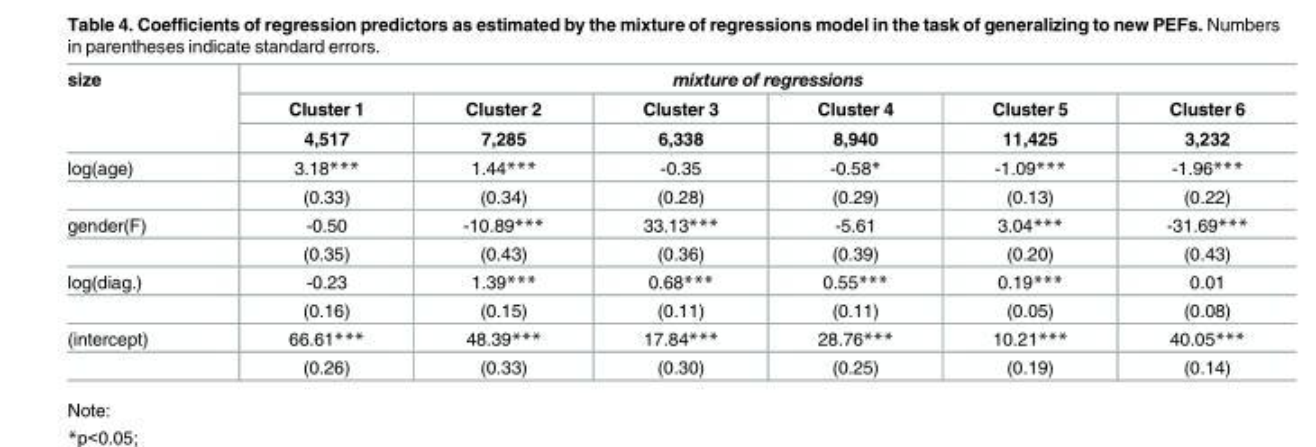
<table><thead><tr><td rowspan="3">size</td><td colspan="6">mixture of regressions</td></tr><tr><td rowspan="2">Cluster 1 4,517</td><td rowspan="2">Cluster 2 7,285</td><td rowspan="2">Cluster 3 6,338</td><td rowspan="2">Cluster 4 8,940</td><td rowspan="2">Cluster 5 11,425</td><td rowspan="2">Cluster 6 3,232</td></tr><tr></tr></thead><tbody><tr><td rowspan="2">log(age)</td><td>3.18***</td><td>1.44***</td><td>-0.35</td><td>-0.58*</td><td>-1.09***</td><td>-1.96***</td></tr><tr><td>(0.33)</td><td>(0.34)</td><td>(0.28)</td><td>(0.29)</td><td>(0.13)</td><td>(0.22)</td></tr><tr><td rowspan="2">gender(F)</td><td>-0.50</td><td>-10.89***</td><td>33.13***</td><td>-5.61</td><td>3.04***</td><td>-31.69***</td></tr><tr><td>(0.35)</td><td>(0.43)</td><td>(0.36)</td><td>(0.39)</td><td>(0.20)</td><td>(0.43)</td></tr><tr><td rowspan="2">log(diag.)</td><td>-0.23</td><td>1.39***</td><td>0.68***</td><td>0.55***</td><td>0.19***</td><td>0.01</td></tr><tr><td>(0.16)</td><td>(0.15)</td><td>(0.11)</td><td>(0.11)</td><td>(0.05)</td><td>(0.08)</td></tr><tr><td rowspan="2">(intercept)</td><td>66.61***</td><td>48.39***</td><td>17.84***</td><td>28.76***</td><td>10.21***</td><td>40.05***</td></tr><tr><td>(0.26)</td><td>(0.33)</td><td>(0.30)</td><td>(0.25)</td><td>(0.19)</td><td>(0.14)</td></tr></tbody></table>